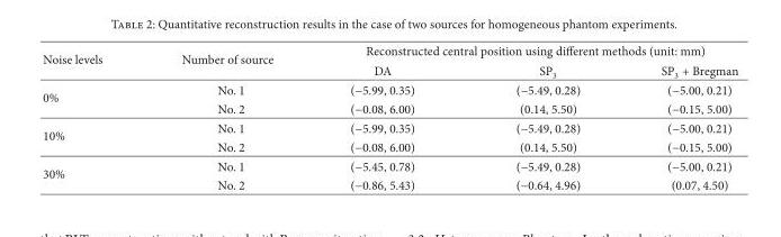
<table><thead><tr><td rowspan="2">Noise levels</td><td rowspan="2">Number of source</td><td colspan="3">Reconstructed central position using different methods (unit: mm)</td></tr><tr><td>DA</td><td>SP<sub>3</sub></td><td>SP<sub>3</sub> + Bregman</td></tr></thead><tbody><tr><td rowspan="2">0%</td><td>No. 1</td><td>(−5.99, 0.35)</td><td>(−5.49, 0.28)</td><td>(−5.00, 0.21)</td></tr><tr><td>No. 2</td><td>(−0.08, 6.00)</td><td>(0.14, 5.50)</td><td>(−0.15, 5.00)</td></tr><tr><td rowspan="2">10%</td><td>No. 1</td><td>(−5.99, 0.35)</td><td>(−5.49, 0.28)</td><td>(−5.00, 0.21)</td></tr><tr><td>No. 2</td><td>(−0.08, 6.00)</td><td>(0.14, 5.50)</td><td>(−0.15, 5.00)</td></tr><tr><td rowspan="2">30%</td><td>No. 1</td><td>(−5.45, 0.78)</td><td>(−5.49, 0.28)</td><td>(−5.00, 0.21)</td></tr><tr><td>No. 2</td><td>(−0.86, 5.43)</td><td>(−0.64, 4.96)</td><td>(0.07, 4.50)</td></tr></tbody></table>